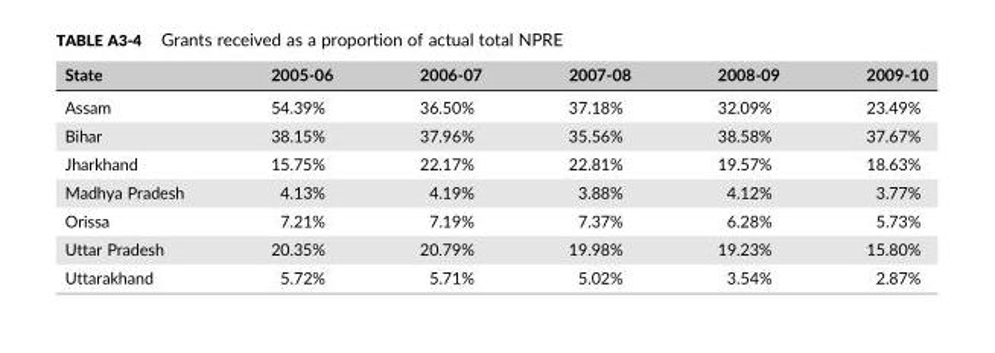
<table><thead><tr><td>State</td><td>2005‐06</td><td>2006‐07</td><td>2007‐08</td><td>2008‐09</td><td>2009‐10</td></tr></thead><tbody><tr><td>Assam</td><td>54.39%</td><td>36.50%</td><td>37.18%</td><td>32.09%</td><td>23.49%</td></tr><tr><td>Bihar</td><td>38.15%</td><td>37.96%</td><td>35.56%</td><td>38.58%</td><td>37.67%</td></tr><tr><td>Jharkhand</td><td>15.75%</td><td>22.17%</td><td>22.81%</td><td>19.57%</td><td>18.63%</td></tr><tr><td>Madhya Pradesh</td><td>4.13%</td><td>4.19%</td><td>3.88%</td><td>4.12%</td><td>3.77%</td></tr><tr><td>Orissa</td><td>7.21%</td><td>7.19%</td><td>7.37%</td><td>6.28%</td><td>5.73%</td></tr><tr><td>Uttar Pradesh</td><td>20.35%</td><td>20.79%</td><td>19.98%</td><td>19.23%</td><td>15.80%</td></tr><tr><td>Uttarakhand</td><td>5.72%</td><td>5.71%</td><td>5.02%</td><td>3.54%</td><td>2.87%</td></tr></tbody></table>